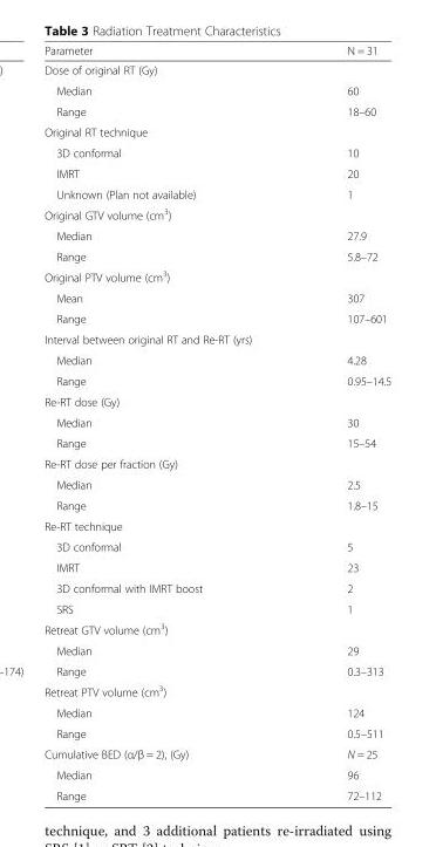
<table><thead><tr><td>Parameter</td><td>N = 31</td></tr></thead><tbody><tr><td colspan="2">Dose of original RT (Gy)</td></tr><tr><td>Median</td><td>60</td></tr><tr><td>Range</td><td>18–60</td></tr><tr><td colspan="2">Original RT technique</td></tr><tr><td>3D conformal</td><td>10</td></tr><tr><td>IMRT</td><td>20</td></tr><tr><td>Unknown (Plan not available)</td><td>1</td></tr><tr><td colspan="2">Original GTV volume (cm<sup>3</sup>)</td></tr><tr><td>Median</td><td>27.9</td></tr><tr><td>Range</td><td>5.8–72</td></tr><tr><td colspan="2">Original PTV volume (cm<sup>3</sup>)</td></tr><tr><td>Mean</td><td>307</td></tr><tr><td>Range</td><td>107–601</td></tr><tr><td colspan="2">Interval between original RT and Re-RT (yrs)</td></tr><tr><td>Median</td><td>4.28</td></tr><tr><td>Range</td><td>0.95–14.5</td></tr><tr><td colspan="2">Re-RT dose (Gy)</td></tr><tr><td>Median</td><td>30</td></tr><tr><td>Range</td><td>15–54</td></tr><tr><td colspan="2">Re-RT dose per fraction (Gy)</td></tr><tr><td>Median</td><td>2.5</td></tr><tr><td>Range</td><td>1.8–15</td></tr><tr><td colspan="2">Re-RT technique</td></tr><tr><td>3D conformal</td><td>5</td></tr><tr><td>IMRT</td><td>23</td></tr><tr><td>3D conformal with IMRT boost</td><td>2</td></tr><tr><td>SRS</td><td>1</td></tr><tr><td colspan="2">Retreat GTV volume (cm<sup>3</sup>)</td></tr><tr><td>Median</td><td>29</td></tr><tr><td>Range</td><td>0.3–313</td></tr><tr><td colspan="2">Retreat PTV volume (cm<sup>3</sup>)</td></tr><tr><td>Median</td><td>124</td></tr><tr><td>Range</td><td>0.5–511</td></tr><tr><td>Cumulative BED (α/β = 2), (Gy)</td><td>N = 25</td></tr><tr><td>Median</td><td>96</td></tr><tr><td>Range</td><td>72–112</td></tr></tbody></table>